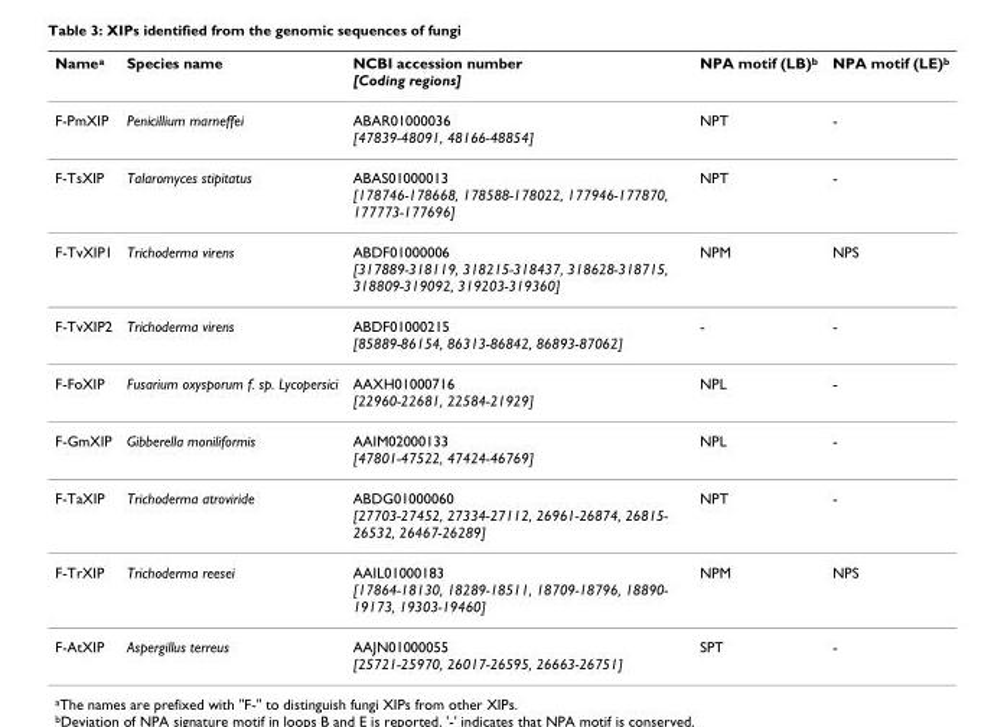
<table><thead><tr><td>Name<sup>a</sup></td><td>Species name</td><td>NCBI accession number [Coding regions]</td><td>NPA motif (LB)<sup>b</sup></td><td>NPA motif (LE)<sup>b</sup></td></tr></thead><tbody><tr><td>F-PmXIP</td><td>Penicillium marneffei</td><td>ABAR01000036 [47839-48091, 48166-48854]</td><td>NPT</td><td>-</td></tr><tr><td>F-TsXIP</td><td>Talaromyces stipitatus</td><td>ABAS01000013 [178746-178668, 178588-178022, 177946-177870, 177773-177696]</td><td>NPT</td><td>-</td></tr><tr><td>F-TvXIP1</td><td>Trichoderma virens</td><td>ABDF01000006 [317889-318119, 318215-318437, 318628-318715, 318809-319092, 319203-319360]</td><td>NPM</td><td>NPS</td></tr><tr><td>F-TvXIP2</td><td>Trichoderma virens</td><td>ABDF01000215 [85889-86154, 86313-86842, 86893-87062]</td><td>-</td><td>-</td></tr><tr><td>F-FoXIP</td><td>Fusarium oxysporum f. sp. Lycopersici</td><td>AAXH01000716 [22960-22681, 22584-21929]</td><td>NPL</td><td>-</td></tr><tr><td>F-GmXIP</td><td>Gibberella moniliformis</td><td>AAIM02000133 [47801-47522, 47424-46769]</td><td>NPL</td><td>-</td></tr><tr><td>F-TaXIP</td><td>Trichoderma atroviride</td><td>ABDG01000060 [27703-27452, 27334-27112, 26961-26874, 26815- 26532, 26467-26289]</td><td>NPT</td><td>-</td></tr><tr><td>F-TrXIP</td><td>Trichoderma reesei</td><td>AAIL01000183 [17864-18130, 18289-18511, 18709-18796, 18890- 19173, 19303-19460]</td><td>NPM</td><td>NPS</td></tr><tr><td>F-AtXIP</td><td>Aspergillus terreus</td><td>AAJN01000055 [25721-25970, 26017-26595, 26663-26751]</td><td>SPT</td><td>-</td></tr></tbody></table>